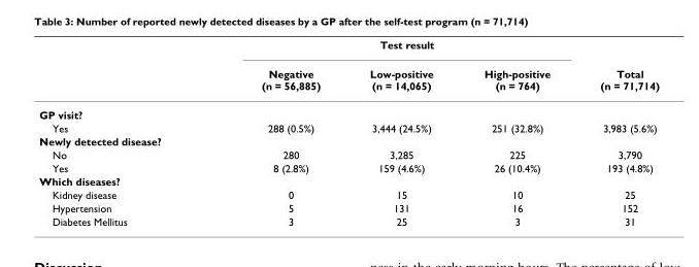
<table><thead><tr><td rowspan="2"></td><td colspan="3">Test result</td><td rowspan="2">Total (n = 71,714)</td></tr><tr><td>Negative (n = 56,885)</td><td>Low-positive (n = 14,065)</td><td>High-positive (n = 764)</td></tr></thead><tbody><tr><td colspan="5">GP visit?</td></tr><tr><td>Yes</td><td>288 (0.5%)</td><td>3,444 (24.5%)</td><td>251 (32.8%)</td><td>3,983 (5.6%)</td></tr><tr><td colspan="5">Newly detected disease?</td></tr><tr><td>No</td><td>280</td><td>3,285</td><td>225</td><td>3,790</td></tr><tr><td>Yes</td><td>8 (2.8%)</td><td>159 (4.6%)</td><td>26 (10.4%)</td><td>193 (4.8%)</td></tr><tr><td colspan="5">Which diseases?</td></tr><tr><td>Kidney disease</td><td>0</td><td>15</td><td>10</td><td>25</td></tr><tr><td>Hypertension</td><td>5</td><td>131</td><td>16</td><td>152</td></tr><tr><td>Diabetes Mellitus</td><td>3</td><td>25</td><td>3</td><td>31</td></tr></tbody></table>